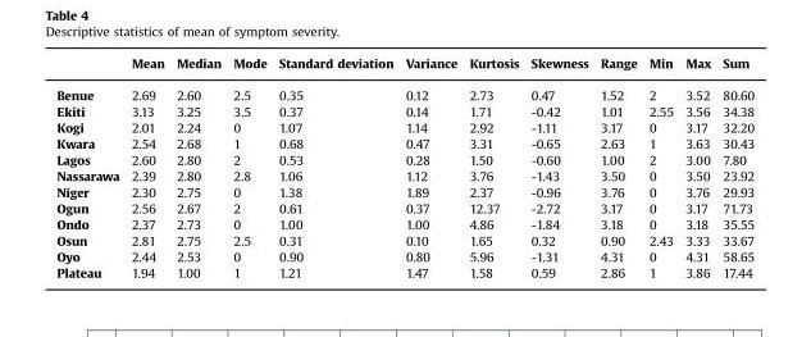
<table><thead><tr><td></td><td>Mean</td><td>Median</td><td>Mode</td><td>Standard deviation</td><td>Variance</td><td>Kurtosis</td><td>Skewness</td><td>Range</td><td>Min</td><td>Max</td><td>Sum</td></tr></thead><tbody><tr><td>Benue</td><td>2.69</td><td>2.60</td><td>2.5</td><td>0.35</td><td>0.12</td><td>2.73</td><td>0.47</td><td>1.52</td><td>2</td><td>3.52</td><td>80.60</td></tr><tr><td>Ekiti</td><td>3.13</td><td>3.25</td><td>3.5</td><td>0.37</td><td>0.14</td><td>1.71</td><td>-0.42</td><td>1.01</td><td>2.55</td><td>3.56</td><td>34.38</td></tr><tr><td>Kogi</td><td>2.01</td><td>2.24</td><td>0</td><td>1.07</td><td>1.14</td><td>2.92</td><td>-1.11</td><td>3.17</td><td>0</td><td>3.17</td><td>32.20</td></tr><tr><td>Kwara</td><td>2.54</td><td>2.68</td><td>1</td><td>0.68</td><td>0.47</td><td>3.31</td><td>-0.65</td><td>2.63</td><td>1</td><td>3.63</td><td>30.43</td></tr><tr><td>Lagos</td><td>2.60</td><td>2.80</td><td>2</td><td>0.53</td><td>0.28</td><td>1.50</td><td>-0.60</td><td>1.00</td><td>2</td><td>3.00</td><td>7.80</td></tr><tr><td>Nassarawa</td><td>2.39</td><td>2.80</td><td>2.8</td><td>1.06</td><td>1.12</td><td>3.76</td><td>-1.43</td><td>3.50</td><td>0</td><td>3.50</td><td>23.92</td></tr><tr><td>Niger</td><td>2.30</td><td>2.75</td><td>0</td><td>1.38</td><td>1.89</td><td>2.37</td><td>-0.96</td><td>3.76</td><td>0</td><td>3.76</td><td>29.93</td></tr><tr><td>Ogun</td><td>2.56</td><td>2.67</td><td>2</td><td>0.61</td><td>0.37</td><td>12.37</td><td>-2.72</td><td>3.17</td><td>0</td><td>3.17</td><td>71.73</td></tr><tr><td>Ondo</td><td>2.37</td><td>2.73</td><td>0</td><td>1.00</td><td>1.00</td><td>4.86</td><td>-1.84</td><td>3.18</td><td>0</td><td>3.18</td><td>35.55</td></tr><tr><td>Osun</td><td>2.81</td><td>2.75</td><td>2.5</td><td>0.31</td><td>0.10</td><td>1.65</td><td>0.32</td><td>0.90</td><td>2.43</td><td>3.33</td><td>33.67</td></tr><tr><td>Oyo</td><td>2.44</td><td>2.53</td><td>0</td><td>0.90</td><td>0.80</td><td>5.96</td><td>-1.31</td><td>4.31</td><td>0</td><td>4.31</td><td>58.65</td></tr><tr><td>Plateau</td><td>1.94</td><td>1.00</td><td>1</td><td>1.21</td><td>1.47</td><td>1.58</td><td>0.59</td><td>2.86</td><td>1</td><td>3.86</td><td>17.44</td></tr></tbody></table>